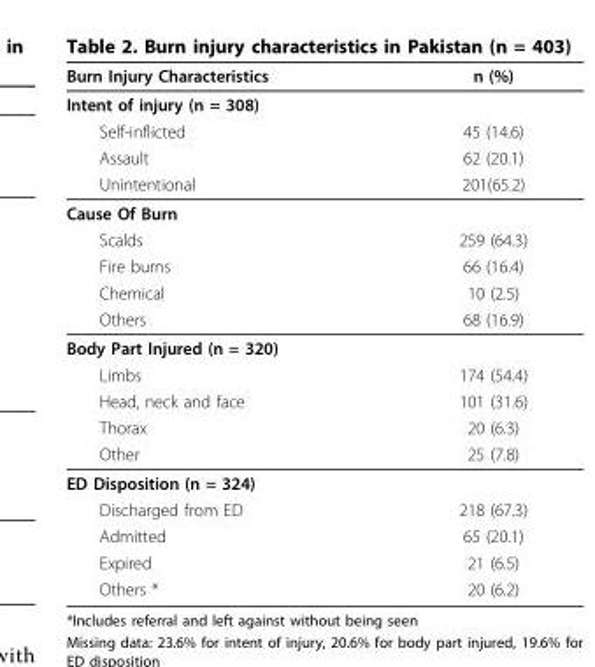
<table><thead><tr><td>Burn Injury Characteristics</td><td>n (%)</td></tr></thead><tbody><tr><td colspan="2">Intent of injury (n = 308)</td></tr><tr><td>Self-inflicted</td><td>45 (14.6)</td></tr><tr><td>Assault</td><td>62 (20.1)</td></tr><tr><td>Unintentional</td><td>201(65.2)</td></tr><tr><td colspan="2">Cause Of Burn</td></tr><tr><td>Scalds</td><td>259 (64.3)</td></tr><tr><td>Fire burns</td><td>66 (16.4)</td></tr><tr><td>Chemical</td><td>10 (2.5)</td></tr><tr><td>Others</td><td>68 (16.9)</td></tr><tr><td colspan="2">Body Part Injured (n = 320)</td></tr><tr><td>Limbs</td><td>174 (54.4)</td></tr><tr><td>Head, neck and face</td><td>101 (31.6)</td></tr><tr><td>Thorax</td><td>20 (6.3)</td></tr><tr><td>Other</td><td>25 (7.8)</td></tr><tr><td colspan="2">ED Disposition (n = 324)</td></tr><tr><td>Discharged from ED</td><td>218 (67.3)</td></tr><tr><td>Admitted</td><td>65 (20.1)</td></tr><tr><td>Expired</td><td>21 (6.5)</td></tr><tr><td>Others *</td><td>20 (6.2)</td></tr></tbody></table>